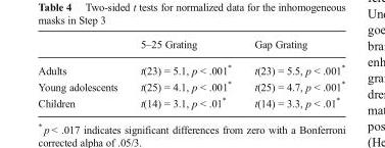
<table><thead><tr><td></td><td>5–25 Grating</td><td>Gap Grating</td></tr></thead><tbody><tr><td>Adults</td><td>t(23) = 5.1, p &lt; .001*</td><td>t(23) = 5.5, p &lt; .001*</td></tr><tr><td>Young adolescents</td><td>t(25) = 4.1, p &lt; .001*</td><td>t(25) = 4.7, p &lt; .001*</td></tr><tr><td>Children</td><td>t(14) = 3.1, p &lt; .01*</td><td>t(14) = 3.3, p &lt; .01*</td></tr></tbody></table>